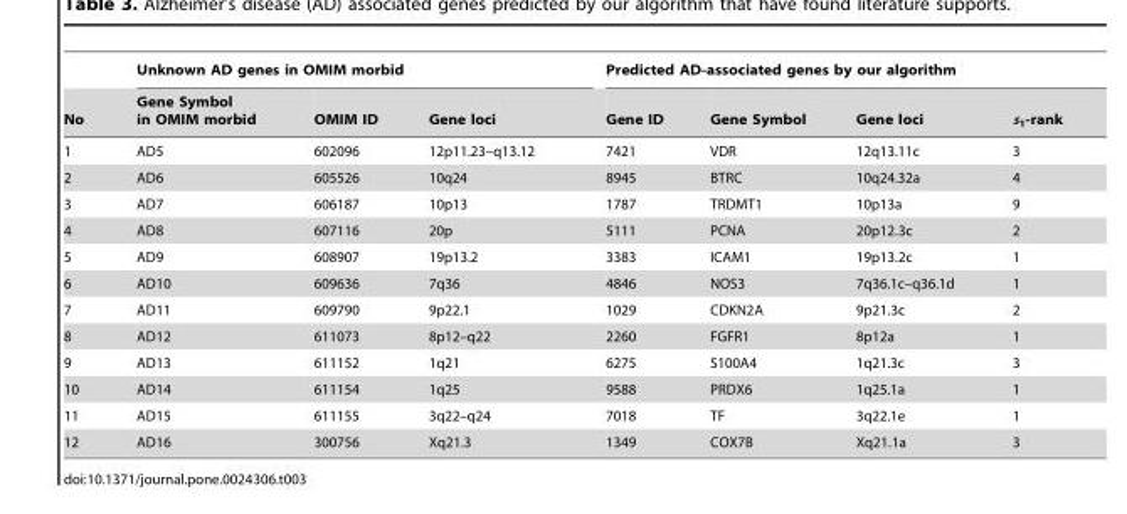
<table><thead><tr><td rowspan="2">No</td><td colspan="3">Unknown AD genes in OMIM morbid</td><td colspan="4">Predicted AD-associated genes by our algorithm</td></tr><tr><td>Gene Symbol in OMIM morbid</td><td>OMIM ID</td><td>Gene loci</td><td>Gene ID</td><td>Gene Symbol</td><td>Gene loci</td><td>s<sub>1</sub>-rank</td></tr></thead><tbody><tr><td>1</td><td>AD5</td><td>602096</td><td>12p11.23–q13.12</td><td>7421</td><td>VDR</td><td>12q13.11c</td><td>3</td></tr><tr><td>2</td><td>AD6</td><td>605526</td><td>10q24</td><td>8945</td><td>BTRC</td><td>10q24.32a</td><td>4</td></tr><tr><td>3</td><td>AD7</td><td>606187</td><td>10p13</td><td>1787</td><td>TRDMT1</td><td>10p13a</td><td>9</td></tr><tr><td>4</td><td>AD8</td><td>607116</td><td>20p</td><td>5111</td><td>PCNA</td><td>20p12.3c</td><td>2</td></tr><tr><td>5</td><td>AD9</td><td>608907</td><td>19p13.2</td><td>3383</td><td>ICAM1</td><td>19p13.2c</td><td>1</td></tr><tr><td>6</td><td>AD10</td><td>609636</td><td>7q36</td><td>4846</td><td>NOS3</td><td>7q36.1c–q36.1d</td><td>1</td></tr><tr><td>7</td><td>AD11</td><td>609790</td><td>9p22.1</td><td>1029</td><td>CDKN2A</td><td>9p21.3c</td><td>2</td></tr><tr><td>8</td><td>AD12</td><td>611073</td><td>8p12–q22</td><td>2260</td><td>FGFR1</td><td>8p12a</td><td>1</td></tr><tr><td>9</td><td>AD13</td><td>611152</td><td>1q21</td><td>6275</td><td>S100A4</td><td>1q21.3c</td><td>3</td></tr><tr><td>10</td><td>AD14</td><td>611154</td><td>1q25</td><td>9588</td><td>PRDX6</td><td>1q25.1a</td><td>1</td></tr><tr><td>11</td><td>AD15</td><td>611155</td><td>3q22–q24</td><td>7018</td><td>TF</td><td>3q22.1e</td><td>1</td></tr><tr><td>12</td><td>AD16</td><td>300756</td><td>Xq21.3</td><td>1349</td><td>COX7B</td><td>Xq21.1a</td><td>3</td></tr></tbody></table>